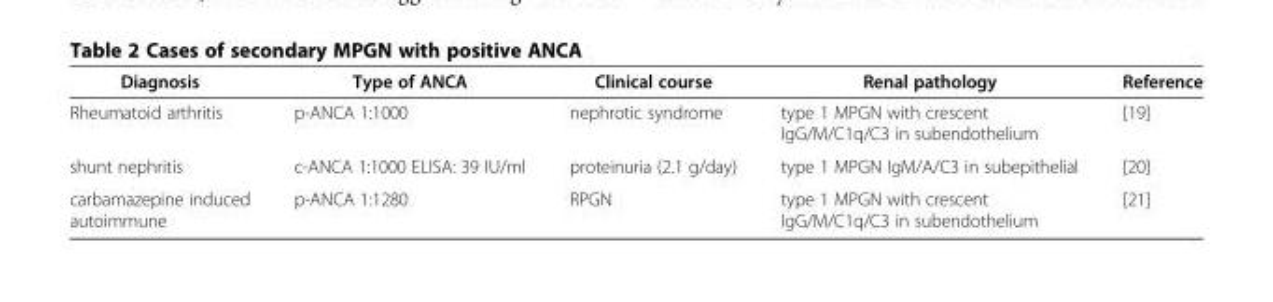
<table><thead><tr><td>Diagnosis</td><td>Type of ANCA</td><td>Clinical course</td><td>Renal pathology</td><td>Reference</td></tr></thead><tbody><tr><td>Rheumatoid arthritis</td><td>p-ANCA 1:1000</td><td>nephrotic syndrome</td><td>type 1 MPGN with crescent IgG/M/C1q/C3 in subendothelium</td><td>[19]</td></tr><tr><td>shunt nephritis</td><td>c-ANCA 1:1000 ELISA: 39 IU/ml</td><td>proteinuria (2.1 g/day)</td><td>type 1 MPGN IgM/A/C3 in subepithelial</td><td>[20]</td></tr><tr><td>carbamazepine induced autoimmune</td><td>p-ANCA 1:1280</td><td>RPGN</td><td>type 1 MPGN with crescent IgG/M/C1q/C3 in subendothelium</td><td>[21]</td></tr></tbody></table>